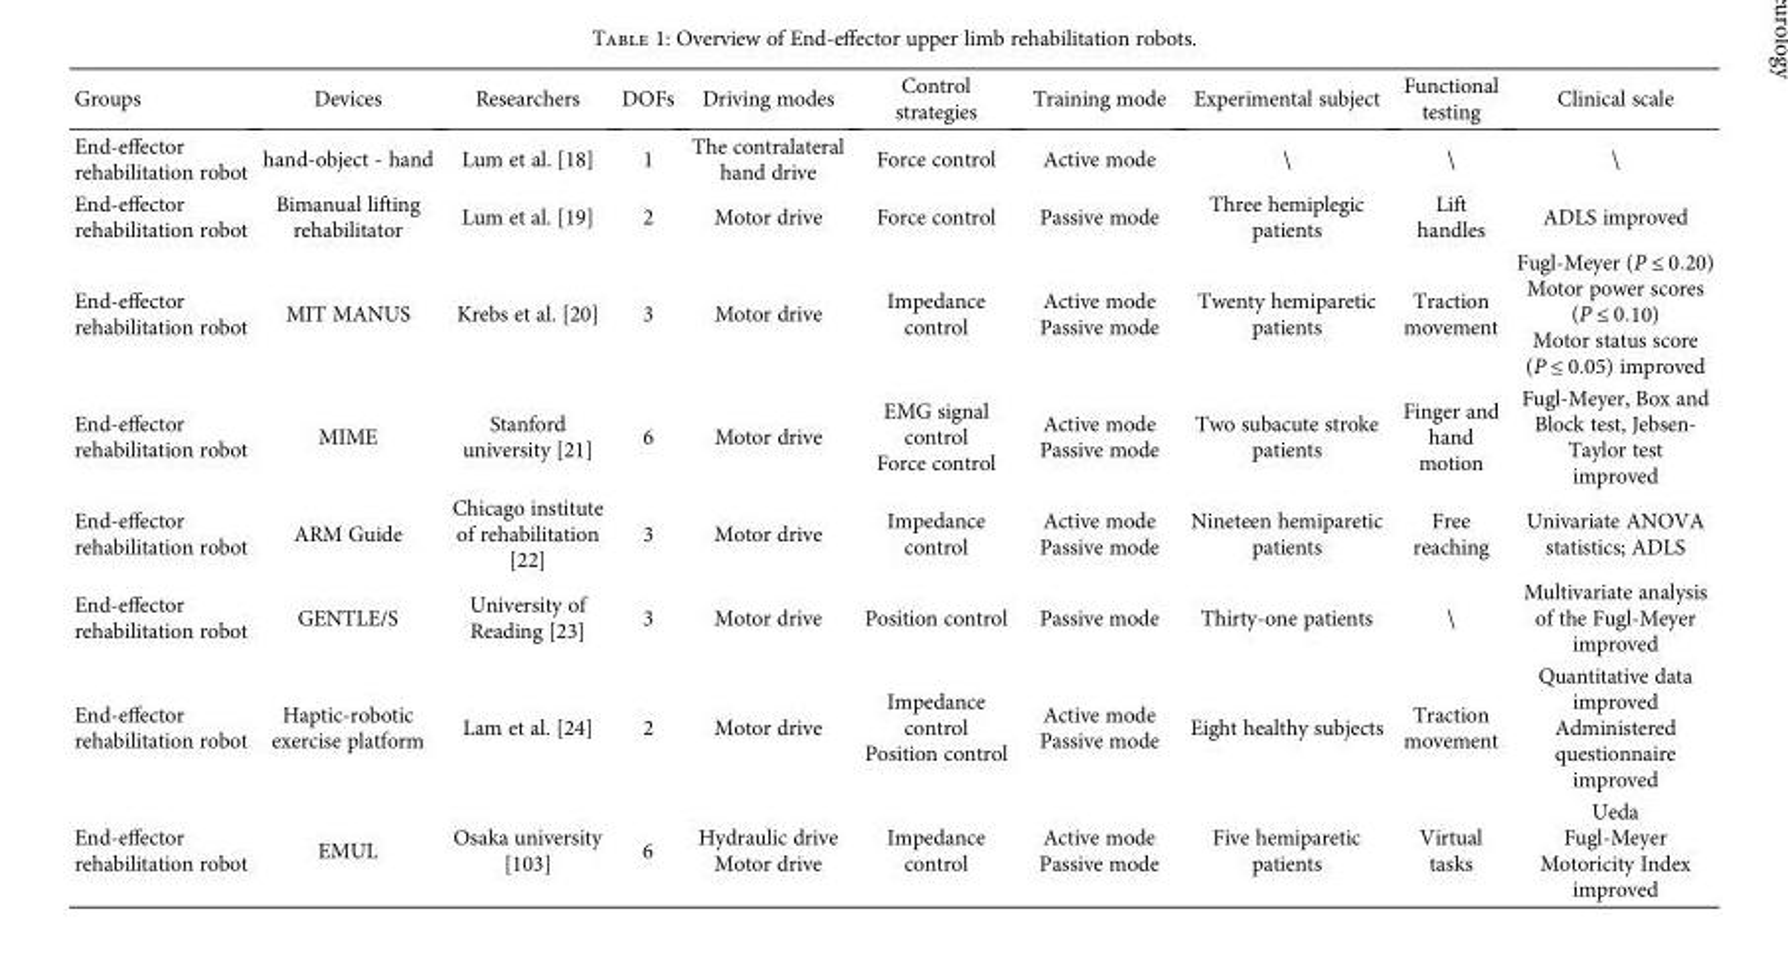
<table><thead><tr><td>Groups</td><td>Devices</td><td>Researchers</td><td>DOFs</td><td>Driving modes</td><td>Control strategies</td><td>Training mode</td><td>Experimental subject</td><td>Functional testing</td><td>Clinical scale</td></tr></thead><tbody><tr><td>End-effector rehabilitation robot</td><td>hand-object - hand</td><td>Lum et al. [18]</td><td>1</td><td>The contralateral hand drive</td><td>Force control</td><td>Active mode</td><td>\</td><td>\</td><td>\</td></tr><tr><td>End-effector rehabilitation robot</td><td>Bimanual lifting rehabilitator</td><td>Lum et al. [19]</td><td>2</td><td>Motor drive</td><td>Force control</td><td>Passive mode</td><td>Three hemiplegic patients</td><td>Lift handles</td><td>ADLS improved</td></tr><tr><td>End-effector rehabilitation robot</td><td>MIT MANUS</td><td>Krebs et al. [20]</td><td>3</td><td>Motor drive</td><td>Impedance control</td><td>Active mode Passive mode</td><td>Twenty hemiparetic patients</td><td>Traction movement</td><td>Fugl-Meyer (P ≤ 0 20) Motor power scores (P ≤ 0 10) Motor status score (P ≤ 0 05) improved</td></tr><tr><td>End-effector rehabilitation robot</td><td>MIME</td><td>Stanford university [21]</td><td>6</td><td>Motor drive</td><td>EMG signal control Force control</td><td>Active mode Passive mode</td><td>Two subacute stroke patients</td><td>Finger and hand motion</td><td>Fugl-Meyer, Box and Block test, Jebsen- Taylor test improved</td></tr><tr><td>End-effector rehabilitation robot</td><td>ARM Guide</td><td>Chicago institute of rehabilitation [22]</td><td>3</td><td>Motor drive</td><td>Impedance control</td><td>Active mode Passive mode</td><td>Nineteen hemiparetic patients</td><td>Free reaching</td><td>Univariate ANOVA statistics; ADLS</td></tr><tr><td>End-effector rehabilitation robot</td><td>GENTLE/S</td><td>University of Reading [23]</td><td>3</td><td>Motor drive</td><td>Position control</td><td>Passive mode</td><td>Thirty-one patients</td><td>\</td><td>Multivariate analysis of the Fugl-Meyer improved</td></tr><tr><td>End-effector rehabilitation robot</td><td>Haptic-robotic exercise platform</td><td>Lam et al. [24]</td><td>2</td><td>Motor drive</td><td>Impedance control Position control</td><td>Active mode Passive mode</td><td>Eight healthy subjects</td><td>Traction movement</td><td>Quantitative data improved Administered questionnaire improved</td></tr><tr><td>End-effector rehabilitation robot</td><td>EMUL</td><td>Osaka university [103]</td><td>6</td><td>Hydraulic drive Motor drive</td><td>Impedance control</td><td>Active mode Passive mode</td><td>Five hemiparetic patients</td><td>Virtual tasks</td><td>Ueda Fugl-Meyer Motoricity Index improved</td></tr></tbody></table>